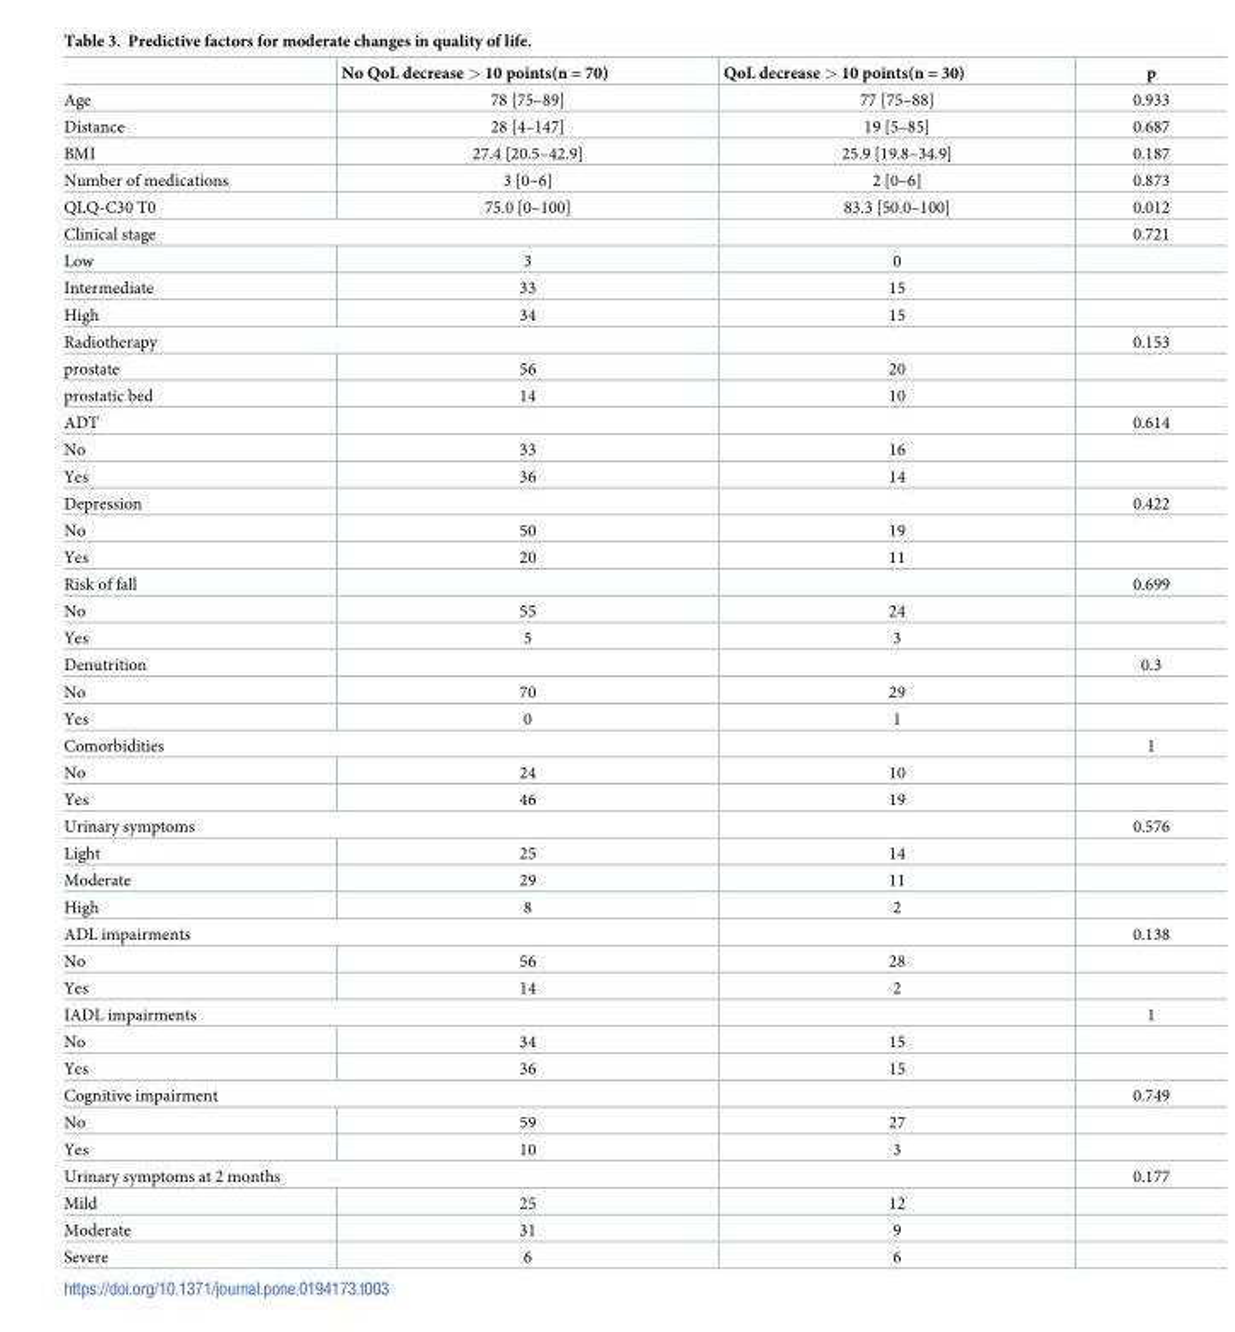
<table><thead><tr><td></td><td>No QoL decrease &gt; 10 points(n = 70)</td><td>QoL decrease &gt; 10 points(n = 30)</td><td>p</td></tr></thead><tbody><tr><td>Age</td><td>78 [75–89]</td><td>77 [75–88]</td><td>0.933</td></tr><tr><td>Distance</td><td>28 [4–147]</td><td>19 [5–85]</td><td>0.687</td></tr><tr><td>BMI</td><td>27.4 [20.5–42.9]</td><td>25.9 [19.8–34.9]</td><td>0.187</td></tr><tr><td>Number of medications</td><td>3 [0–6]</td><td>2 [0–6]</td><td>0.873</td></tr><tr><td>QLQ-C30 T0</td><td>75.0 [0–100]</td><td>83.3 [50.0–100]</td><td>0.012</td></tr><tr><td colspan="2">Clinical stage</td><td></td><td>0.721</td></tr><tr><td>Low</td><td>3</td><td>0</td><td></td></tr><tr><td>Intermediate</td><td>33</td><td>15</td><td></td></tr><tr><td>High</td><td>34</td><td>15</td><td></td></tr><tr><td colspan="2">Radiotherapy</td><td></td><td>0.153</td></tr><tr><td>prostate</td><td>56</td><td>20</td><td></td></tr><tr><td>prostatic bed</td><td>14</td><td>10</td><td></td></tr><tr><td>ADT</td><td></td><td></td><td>0.614</td></tr><tr><td>No</td><td>33</td><td>16</td><td></td></tr><tr><td>Yes</td><td>36</td><td>14</td><td></td></tr><tr><td>Depression</td><td></td><td></td><td>0.422</td></tr><tr><td>No</td><td>50</td><td>19</td><td></td></tr><tr><td>Yes</td><td>20</td><td>11</td><td></td></tr><tr><td>Risk of fall</td><td></td><td></td><td>0.699</td></tr><tr><td>No</td><td>55</td><td>24</td><td></td></tr><tr><td>Yes</td><td>5</td><td>3</td><td></td></tr><tr><td>Denutrition</td><td></td><td></td><td>0.3</td></tr><tr><td>No</td><td>70</td><td>29</td><td></td></tr><tr><td>Yes</td><td>0</td><td>1</td><td></td></tr><tr><td colspan="2">Comorbidities</td><td></td><td>1</td></tr><tr><td>No</td><td>24</td><td>10</td><td></td></tr><tr><td>Yes</td><td>46</td><td>19</td><td></td></tr><tr><td colspan="2">Urinary symptoms</td><td></td><td>0.576</td></tr><tr><td>Light</td><td>25</td><td>14</td><td></td></tr><tr><td>Moderate</td><td>29</td><td>11</td><td></td></tr><tr><td>High</td><td>8</td><td>2</td><td></td></tr><tr><td colspan="2">ADL impairments</td><td></td><td>0.138</td></tr><tr><td>No</td><td>56</td><td>28</td><td></td></tr><tr><td>Yes</td><td>14</td><td>2</td><td></td></tr><tr><td colspan="2">IADL impairments</td><td></td><td>1</td></tr><tr><td>No</td><td>34</td><td>15</td><td></td></tr><tr><td>Yes</td><td>36</td><td>15</td><td></td></tr><tr><td colspan="2">Cognitive impairment</td><td></td><td>0.749</td></tr><tr><td>No</td><td>59</td><td>27</td><td></td></tr><tr><td>Yes</td><td>10</td><td>3</td><td></td></tr><tr><td colspan="2">Urinary symptoms at 2 months</td><td></td><td>0.177</td></tr><tr><td>Mild</td><td>25</td><td>12</td><td></td></tr><tr><td>Moderate</td><td>31</td><td>9</td><td></td></tr><tr><td>Severe</td><td>6</td><td>6</td><td></td></tr></tbody></table>